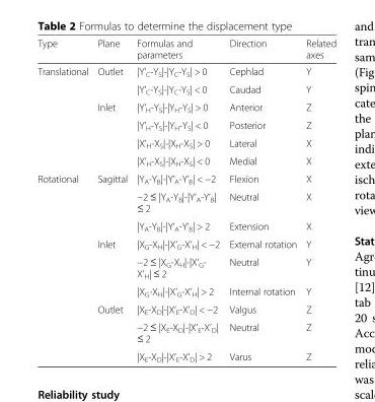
<table><thead><tr><td>Type</td><td>Plane</td><td>Formulas and parameters</td><td>Direction</td><td>Related axes</td></tr></thead><tbody><tr><td rowspan="6">Translational</td><td rowspan="2">Outlet</td><td>|Y’<sub>C</sub>-Y<sub>S</sub>|-|Y<sub>C</sub>-Y<sub>S</sub>| &gt; 0</td><td>Cephlad</td><td>Y</td></tr><tr><td>|Y’<sub>C</sub>-Y<sub>S</sub>|-|Y<sub>C</sub>-Y<sub>S</sub>| &lt; 0</td><td>Caudad</td><td>Y</td></tr><tr><td rowspan="4">Inlet</td><td>|Y’<sub>H</sub>-Y<sub>S</sub>|-|Y<sub>H</sub>-Y<sub>S</sub>| &gt; 0</td><td>Anterior</td><td>Z</td></tr><tr><td>|Y’<sub>H</sub>-Y<sub>S</sub>|-|Y<sub>H</sub>-Y<sub>S</sub>| &lt; 0</td><td>Posterior</td><td>Z</td></tr><tr><td>|X’<sub>H</sub>-X<sub>S</sub>|-|X<sub>H</sub>-X<sub>S</sub>| &gt; 0</td><td>Lateral</td><td>X</td></tr><tr><td>|X’<sub>H</sub>-X<sub>S</sub>|-|X<sub>H</sub>-X<sub>S</sub>| &lt; 0</td><td>Medial</td><td>X</td></tr><tr><td rowspan="9">Rotational</td><td rowspan="3">Sagittal</td><td>|Y<sub>A</sub>-Y<sub>B</sub>|-|Y’<sub>A</sub>-Y’<sub>B</sub>| &lt; −2</td><td>Flexion</td><td>X</td></tr><tr><td>−2 ≤ |Y<sub>A</sub>-Y<sub>B</sub>|-|Y’<sub>A</sub>-Y’<sub>B</sub>| ≤ 2</td><td>Neutral</td><td>X</td></tr><tr><td>|Y<sub>A</sub>-Y<sub>B</sub>|-|Y’<sub>A</sub>-Y’<sub>B</sub>| &gt; 2</td><td>Extension</td><td>X</td></tr><tr><td rowspan="3">Inlet</td><td>|X<sub>G</sub>-X<sub>H</sub>|-|X’<sub>G</sub>-X’<sub>H</sub>| &lt; −2</td><td>External rotation</td><td>Y</td></tr><tr><td>−2 ≤ |X<sub>G</sub>-X<sub>H</sub>|-|X’<sub>G</sub>- X’<sub>H</sub>| ≤ 2</td><td>Neutral</td><td>Y</td></tr><tr><td>|X<sub>G</sub>-X<sub>H</sub>|-|X’<sub>G</sub>-X’<sub>H</sub>| &gt; 2</td><td>Internal rotation</td><td>Y</td></tr><tr><td rowspan="3">Outlet</td><td>|X<sub>E</sub>-X<sub>D</sub>|-|X’<sub>E</sub>-X’<sub>D</sub>| &lt; −2</td><td>Valgus</td><td>Z</td></tr><tr><td>−2 ≤ |X<sub>E</sub>-X<sub>D</sub>|-|X’<sub>E</sub>-X’<sub>D</sub>| ≤ 2</td><td>Neutral</td><td>Z</td></tr><tr><td>|X<sub>E</sub>-X<sub>D</sub>|-|X’<sub>E</sub>-X’<sub>D</sub>| &gt; 2</td><td>Varus</td><td>Z</td></tr></tbody></table>